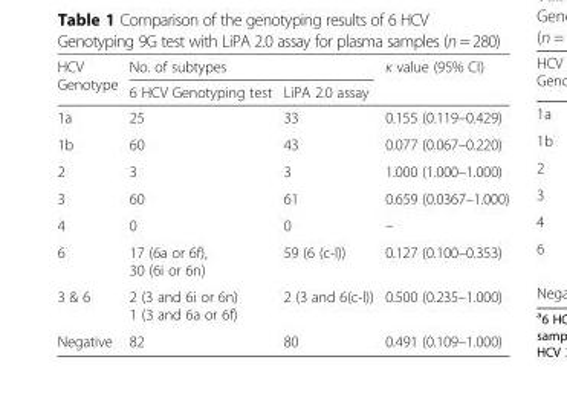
<table><thead><tr><td rowspan="2">HCV Genotype</td><td colspan="2">No. of subtypes</td><td rowspan="2">κ value (95% CI)</td></tr><tr><td>6 HCV Genotyping test</td><td>LiPA 2.0 assay</td></tr></thead><tbody><tr><td>1a</td><td>25</td><td>33</td><td>0.155 (0.119–0.429)</td></tr><tr><td>1b</td><td>60</td><td>43</td><td>0.077 (0.067–0.220)</td></tr><tr><td>2</td><td>3</td><td>3</td><td>1.000 (1.000–1.000)</td></tr><tr><td>3</td><td>60</td><td>61</td><td>0.659 (0.0367–1.000)</td></tr><tr><td>4</td><td>0</td><td>0</td><td>–</td></tr><tr><td>6</td><td>17 (6a or 6f), 30 (6i or 6n)</td><td>59 (6 (c-l))</td><td>0.127 (0.100–0.353)</td></tr><tr><td>3 &amp; 6</td><td>2 (3 and 6i or 6n) 1 (3 and 6a or 6f)</td><td>2 (3 and 6(c-l))</td><td>0.500 (0.235–1.000)</td></tr><tr><td>Negative</td><td>82</td><td>80</td><td>0.491 (0.109–1.000)</td></tr></tbody></table>